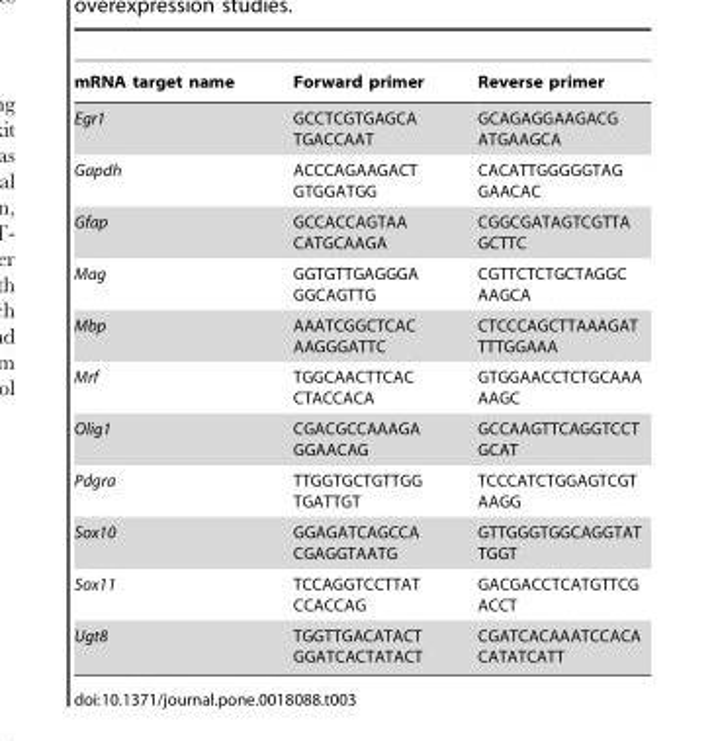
<table><thead><tr><td>mRNA target name</td><td>Forward primer</td><td>Reverse primer</td></tr></thead><tbody><tr><td>Egr1</td><td>GCCTCGTGAGCA TGACCAAT</td><td>GCAGAGGAAGACG ATGAAGCA</td></tr><tr><td>Gapdh</td><td>ACCCAGAAGACT GTGGATGG</td><td>CACATTGGGGGTAG GAACAC</td></tr><tr><td>Gfap</td><td>GCCACCAGTAA CATGCAAGA</td><td>CGGCGATAGTCGTTA GCTTC</td></tr><tr><td>Mag</td><td>GGTGTTGAGGGA GGCAGTTG</td><td>CGTTCTCTGCTAGGC AAGCA</td></tr><tr><td>Mbp</td><td>AAATCGGCTCAC AAGGGATTC</td><td>CTCCCAGCTTAAAGAT TTTGGAAA</td></tr><tr><td>Mrf</td><td>TGGCAACTTCAC CTACCACA</td><td>GTGGAACCTCTGCAAA AAGC</td></tr><tr><td>Olig1</td><td>CGACGCCAAAGA GGAACAG</td><td>GCCAAGTTCAGGTCCT GCAT</td></tr><tr><td>Pdgra</td><td>TTGGTGCTGTTGG TGATTGT</td><td>TCCCATCTGGAGTCGT AAGG</td></tr><tr><td>Sox10</td><td>GGAGATCAGCCA CGAGGTAATG</td><td>GTTGGGTGGCAGGTAT TGGT</td></tr><tr><td>Sox11</td><td>TCCAGGTCCTTAT CCACCAG</td><td>GACGACCTCATGTTCG ACCT</td></tr><tr><td>Ugt8</td><td>TGGTTGACATACT GGATCACTATACT</td><td>CGATCACAAATCCACA CATATCATT</td></tr></tbody></table>